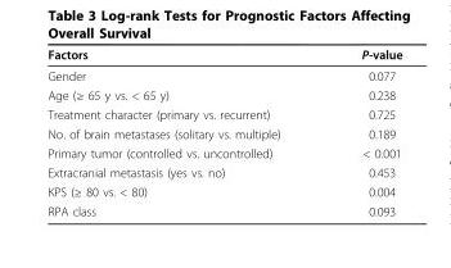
<table><thead><tr><td>Factors</td><td>P-value</td></tr></thead><tbody><tr><td>Gender</td><td>0.077</td></tr><tr><td>Age (≥ 65 y vs. &lt; 65 y)</td><td>0.238</td></tr><tr><td>Treatment character (primary vs. recurrent)</td><td>0.725</td></tr><tr><td>No. of brain metastases (solitary vs. multiple)</td><td>0.189</td></tr><tr><td>Primary tumor (controlled vs. uncontrolled)</td><td>&lt; 0.001</td></tr><tr><td>Extracranial metastasis (yes vs. no)</td><td>0.453</td></tr><tr><td>KPS (≥ 80 vs. &lt; 80)</td><td>0.004</td></tr><tr><td>RPA class</td><td>0.093</td></tr></tbody></table>